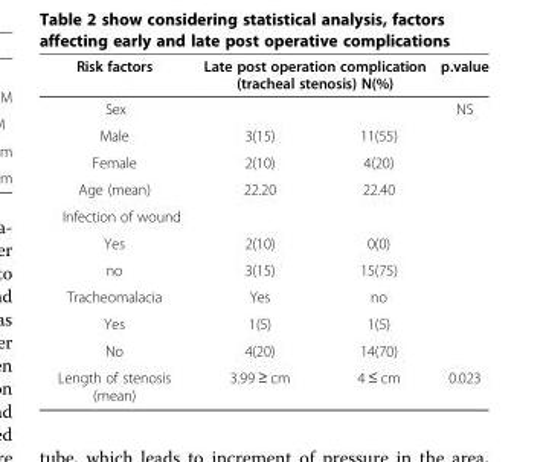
<table><thead><tr><td rowspan="2">Risk factors Sex</td><td colspan="2">Late post operation complication (tracheal stenosis) N(%)</td><td rowspan="2">p.value NS</td></tr><tr><td></td><td></td></tr></thead><tbody><tr><td>Male</td><td>3(15)</td><td>11(55)</td><td></td></tr><tr><td>Female</td><td>2(10)</td><td>4(20)</td><td></td></tr><tr><td>Age (mean)</td><td>22.20</td><td>22.40</td><td></td></tr><tr><td colspan="4">Infection of wound</td></tr><tr><td>Yes</td><td>2(10)</td><td>0(0)</td><td></td></tr><tr><td>no</td><td>3(15)</td><td>15(75)</td><td></td></tr><tr><td>Tracheomalacia</td><td>Yes</td><td>no</td><td></td></tr><tr><td>Yes</td><td>1(5)</td><td>1(5)</td><td></td></tr><tr><td>No</td><td>4(20)</td><td>14(70)</td><td></td></tr><tr><td>Length of stenosis (mean)</td><td>3.99 ≥ cm</td><td>4 ≤ cm</td><td>0.023</td></tr></tbody></table>